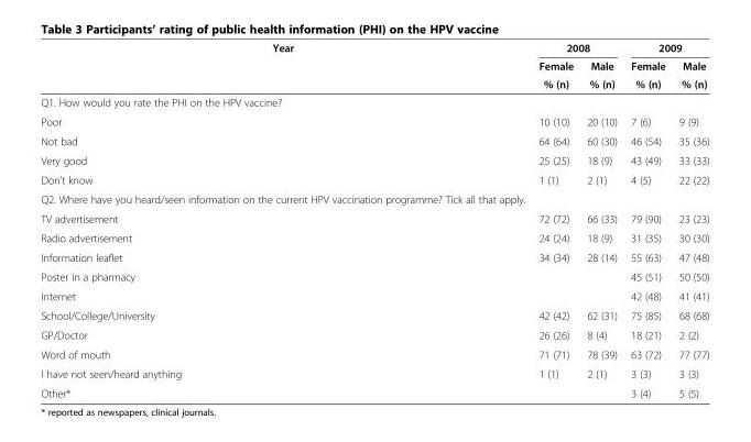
<table><thead><tr><td rowspan="3">Year</td><td colspan="2">2008</td><td colspan="2">2009</td></tr><tr><td rowspan="2">Female % (n)</td><td rowspan="2">Male % (n)</td><td rowspan="2">Female % (n)</td><td rowspan="2">Male % (n)</td></tr><tr></tr></thead><tbody><tr><td colspan="5">Q1. How would you rate the PHI on the HPV vaccine?</td></tr><tr><td>Poor</td><td>10 (10)</td><td>20 (10)</td><td>7 (6)</td><td>9 (9)</td></tr><tr><td>Not bad</td><td>64 (64)</td><td>60 (30)</td><td>46 (54)</td><td>35 (36)</td></tr><tr><td>Very good</td><td>25 (25)</td><td>18 (9)</td><td>43 (49)</td><td>33 (33)</td></tr><tr><td>Don’t know</td><td>1 (1)</td><td>2 (1)</td><td>4 (5)</td><td>22 (22)</td></tr><tr><td colspan="5">Q2. Where have you heard/seen information on the current HPV vaccination programme? Tick all that apply.</td></tr><tr><td>TV advertisement</td><td>72 (72)</td><td>66 (33)</td><td>79 (90)</td><td>23 (23)</td></tr><tr><td>Radio advertisement</td><td>24 (24)</td><td>18 (9)</td><td>31 (35)</td><td>30 (30)</td></tr><tr><td>Information leaflet</td><td>34 (34)</td><td>28 (14)</td><td>55 (63)</td><td>47 (48)</td></tr><tr><td>Poster in a pharmacy</td><td></td><td></td><td>45 (51)</td><td>50 (50)</td></tr><tr><td>Internet</td><td></td><td></td><td>42 (48)</td><td>41 (41)</td></tr><tr><td>School/College/University</td><td>42 (42)</td><td>62 (31)</td><td>75 (85)</td><td>68 (68)</td></tr><tr><td>GP/Doctor</td><td>26 (26)</td><td>8 (4)</td><td>18 (21)</td><td>2 (2)</td></tr><tr><td>Word of mouth</td><td>71 (71)</td><td>78 (39)</td><td>63 (72)</td><td>77 (77)</td></tr><tr><td>I have not seen/heard anything</td><td>1 (1)</td><td>2 (1)</td><td>3 (3)</td><td>3 (3)</td></tr><tr><td>Other*</td><td></td><td></td><td>3 (4)</td><td>5 (5)</td></tr></tbody></table>